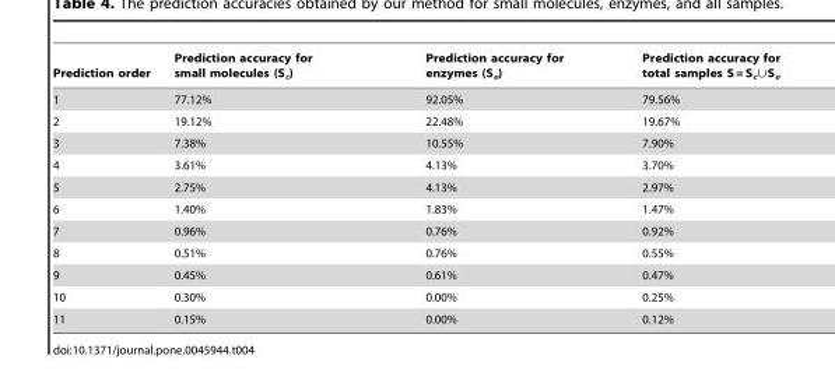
<table><thead><tr><td>Prediction order</td><td>Prediction accuracy for small molecules (S<sub>c</sub>)</td><td>Prediction accuracy for enzymes (S<sub>e</sub>)</td><td>Prediction accuracy for total samples S = Sc&lt;Se</td></tr></thead><tbody><tr><td>1</td><td>77.12%</td><td>92.05%</td><td>79.56%</td></tr><tr><td>2</td><td>19.12%</td><td>22.48%</td><td>19.67%</td></tr><tr><td>3</td><td>7.38%</td><td>10.55%</td><td>7.90%</td></tr><tr><td>4</td><td>3.61%</td><td>4.13%</td><td>3.70%</td></tr><tr><td>5</td><td>2.75%</td><td>4.13%</td><td>2.97%</td></tr><tr><td>6</td><td>1.40%</td><td>1.83%</td><td>1.47%</td></tr><tr><td>7</td><td>0.96%</td><td>0.76%</td><td>0.92%</td></tr><tr><td>8</td><td>0.51%</td><td>0.76%</td><td>0.55%</td></tr><tr><td>9</td><td>0.45%</td><td>0.61%</td><td>0.47%</td></tr><tr><td>10</td><td>0.30%</td><td>0.00%</td><td>0.25%</td></tr><tr><td>11</td><td>0.15%</td><td>0.00%</td><td>0.12%</td></tr></tbody></table>